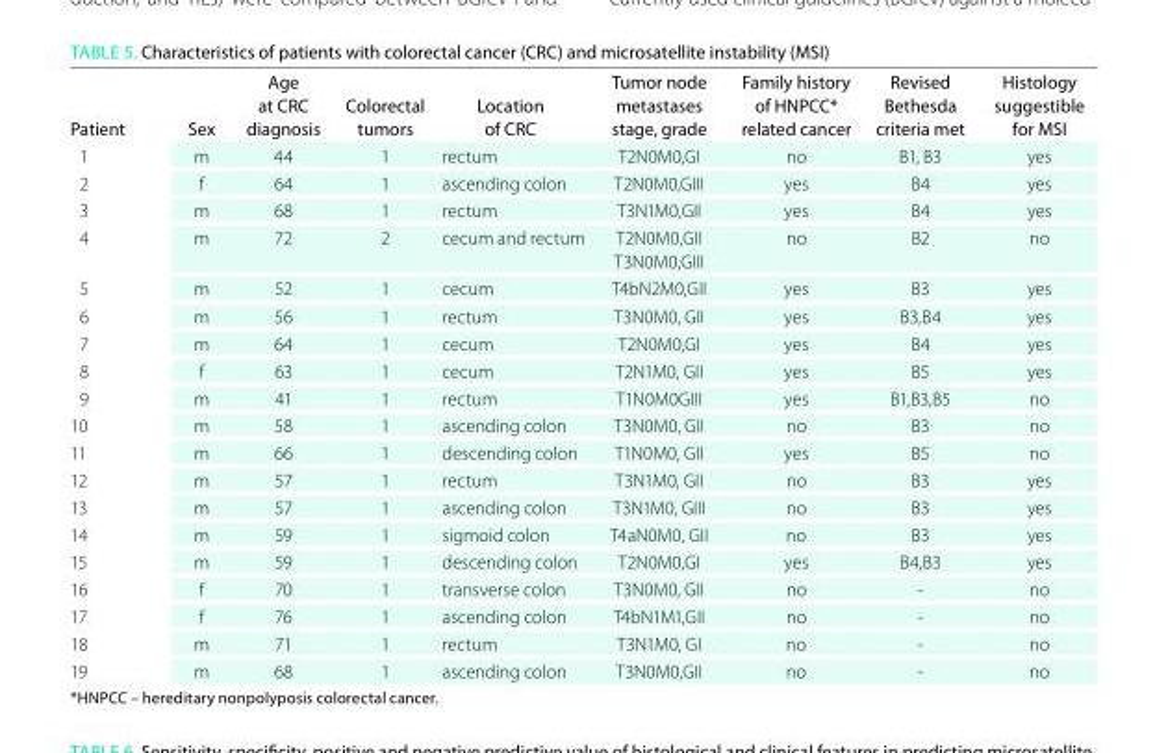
<table><thead><tr><td>Patient</td><td>Sex</td><td>Age at CRC diagnosis</td><td>Colorectal tumors</td><td>location of CRC</td><td>tumor node metastases stage, grade</td><td>Family history of hNPCC* related cancer</td><td>Revised Bethesda criteria met</td><td>histology suggestible for MSI</td></tr></thead><tbody><tr><td>1</td><td>m</td><td>44</td><td>1</td><td>rectum</td><td>T2N0M0,GI</td><td>no</td><td>B1, B3</td><td>yes</td></tr><tr><td>2</td><td>f</td><td>64</td><td>1</td><td>ascending colon</td><td>T2N0M0,GIII</td><td>yes</td><td>B4</td><td>yes</td></tr><tr><td>3</td><td>m</td><td>68</td><td>1</td><td>rectum</td><td>T3N1M0,GII</td><td>yes</td><td>B4</td><td>yes</td></tr><tr><td>4</td><td>m</td><td>72</td><td>2</td><td>cecum and rectum</td><td>T2N0M0,GII T3N0M0,GIII</td><td>no</td><td>B2</td><td>no</td></tr><tr><td>5</td><td>m</td><td>52</td><td>1</td><td>cecum</td><td>T4bN2M0,GII</td><td>yes</td><td>B3</td><td>yes</td></tr><tr><td>6</td><td>m</td><td>56</td><td>1</td><td>rectum</td><td>T3N0M0, GII</td><td>yes</td><td>B3,B4</td><td>yes</td></tr><tr><td>7</td><td>m</td><td>64</td><td>1</td><td>cecum</td><td>T2N0M0,GI</td><td>yes</td><td>B4</td><td>yes</td></tr><tr><td>8</td><td>f</td><td>63</td><td>1</td><td>cecum</td><td>T2N1M0, GII</td><td>yes</td><td>B5</td><td>yes</td></tr><tr><td>9</td><td>m</td><td>41</td><td>1</td><td>rectum</td><td>T1N0M0GIII</td><td>yes</td><td>B1,B3,B5</td><td>no</td></tr><tr><td>10</td><td>m</td><td>58</td><td>1</td><td>ascending colon</td><td>T3N0M0, GII</td><td>no</td><td>B3</td><td>no</td></tr><tr><td>11</td><td>m</td><td>66</td><td>1</td><td>descending colon</td><td>T1N0M0, GII</td><td>yes</td><td>B5</td><td>no</td></tr><tr><td>12</td><td>m</td><td>57</td><td>1</td><td>rectum</td><td>T3N1M0, GII</td><td>no</td><td>B3</td><td>yes</td></tr><tr><td>13</td><td>m</td><td>57</td><td>1</td><td>ascending colon</td><td>T3N1M0, GIII</td><td>no</td><td>B3</td><td>yes</td></tr><tr><td>14</td><td>m</td><td>59</td><td>1</td><td>sigmoid colon</td><td>T4aN0M0, GII</td><td>no</td><td>B3</td><td>yes</td></tr><tr><td>15</td><td>m</td><td>59</td><td>1</td><td>descending colon</td><td>T2N0M0,GI</td><td>yes</td><td>B4,B3</td><td>yes</td></tr><tr><td>16</td><td>f</td><td>70</td><td>1</td><td>transverse colon</td><td>T3N0M0, GII</td><td>no</td><td>-</td><td>no</td></tr><tr><td>17</td><td>f</td><td>76</td><td>1</td><td>ascending colon</td><td>T4bN1M1,GII</td><td>no</td><td>-</td><td>no</td></tr><tr><td>18</td><td>m</td><td>71</td><td>1</td><td>rectum</td><td>T3N1M0, GI</td><td>no</td><td>-</td><td>no</td></tr><tr><td>19</td><td>m</td><td>68</td><td>1</td><td>ascending colon</td><td>T3N0M0,GII</td><td>no</td><td>-</td><td>no</td></tr></tbody></table>